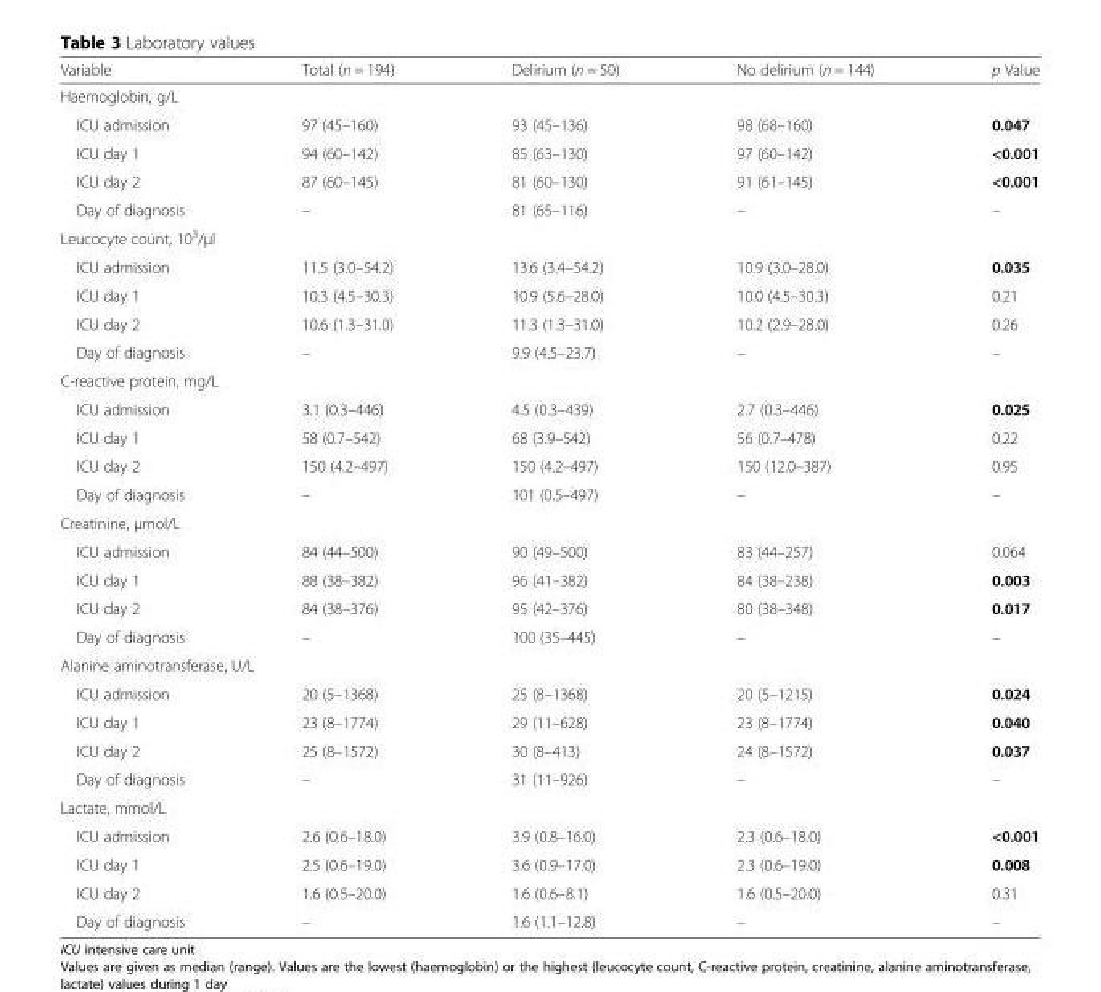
<table><thead><tr><td>Variable</td><td>Total (n = 194)</td><td>Delirium (n = 50)</td><td>No delirium (n = 144)</td><td>p Value</td></tr></thead><tbody><tr><td colspan="5">Haemoglobin, g/L</td></tr><tr><td>ICU admission</td><td>97 (45–160)</td><td>93 (45–136)</td><td>98 (68–160)</td><td>0.047</td></tr><tr><td>ICU day 1</td><td>94 (60–142)</td><td>85 (63–130)</td><td>97 (60–142)</td><td>&lt;0.001</td></tr><tr><td>ICU day 2</td><td>87 (60–145)</td><td>81 (60–130)</td><td>91 (61–145)</td><td>&lt;0.001</td></tr><tr><td>Day of diagnosis</td><td>–</td><td>81 (65–116)</td><td>–</td><td>–</td></tr><tr><td colspan="5">Leucocyte count, 10<sup>3</sup>/μl</td></tr><tr><td>ICU admission</td><td>11.5 (3.0–54.2)</td><td>13.6 (3.4–54.2)</td><td>10.9 (3.0–28.0)</td><td>0.035</td></tr><tr><td>ICU day 1</td><td>10.3 (4.5–30.3)</td><td>10.9 (5.6–28.0)</td><td>10.0 (4.5–30.3)</td><td>0.21</td></tr><tr><td>ICU day 2</td><td>10.6 (1.3–31.0)</td><td>11.3 (1.3–31.0)</td><td>10.2 (2.9–28.0)</td><td>0.26</td></tr><tr><td>Day of diagnosis</td><td>–</td><td>9.9 (4.5–23.7)</td><td>–</td><td>–</td></tr><tr><td colspan="5">C-reactive protein, mg/L</td></tr><tr><td>ICU admission</td><td>3.1 (0.3–446)</td><td>4.5 (0.3–439)</td><td>2.7 (0.3–446)</td><td>0.025</td></tr><tr><td>ICU day 1</td><td>58 (0.7–542)</td><td>68 (3.9–542)</td><td>56 (0.7–478)</td><td>0.22</td></tr><tr><td>ICU day 2</td><td>150 (4.2–497)</td><td>150 (4.2–497)</td><td>150 (12.0–387)</td><td>0.95</td></tr><tr><td>Day of diagnosis</td><td>–</td><td>101 (0.5–497)</td><td>–</td><td>–</td></tr><tr><td colspan="5">Creatinine, μmol/L</td></tr><tr><td>ICU admission</td><td>84 (44–500)</td><td>90 (49–500)</td><td>83 (44–257)</td><td>0.064</td></tr><tr><td>ICU day 1</td><td>88 (38–382)</td><td>96 (41–382)</td><td>84 (38–238)</td><td>0.003</td></tr><tr><td>ICU day 2</td><td>84 (38–376)</td><td>95 (42–376)</td><td>80 (38–348)</td><td>0.017</td></tr><tr><td>Day of diagnosis</td><td>–</td><td>100 (35–445)</td><td>–</td><td>–</td></tr><tr><td colspan="5">Alanine aminotransferase, U/L</td></tr><tr><td>ICU admission</td><td>20 (5–1368)</td><td>25 (8–1368)</td><td>20 (5–1215)</td><td>0.024</td></tr><tr><td>ICU day 1</td><td>23 (8–1774)</td><td>29 (11–628)</td><td>23 (8–1774)</td><td>0.040</td></tr><tr><td>ICU day 2</td><td>25 (8–1572)</td><td>30 (8–413)</td><td>24 (8–1572)</td><td>0.037</td></tr><tr><td>Day of diagnosis</td><td>–</td><td>31 (11–926)</td><td>–</td><td>–</td></tr><tr><td colspan="5">Lactate, mmol/L</td></tr><tr><td>ICU admission</td><td>2.6 (0.6–18.0)</td><td>3.9 (0.8–16.0)</td><td>2.3 (0.6–18.0)</td><td>&lt;0.001</td></tr><tr><td>ICU day 1</td><td>2.5 (0.6–19.0)</td><td>3.6 (0.9–17.0)</td><td>2.3 (0.6–19.0)</td><td>0.008</td></tr><tr><td>ICU day 2</td><td>1.6 (0.5–20.0)</td><td>1.6 (0.6–8.1)</td><td>1.6 (0.5–20.0)</td><td>0.31</td></tr><tr><td>Day of diagnosis</td><td>–</td><td>1.6 (1.1–12.8)</td><td>–</td><td>–</td></tr></tbody></table>